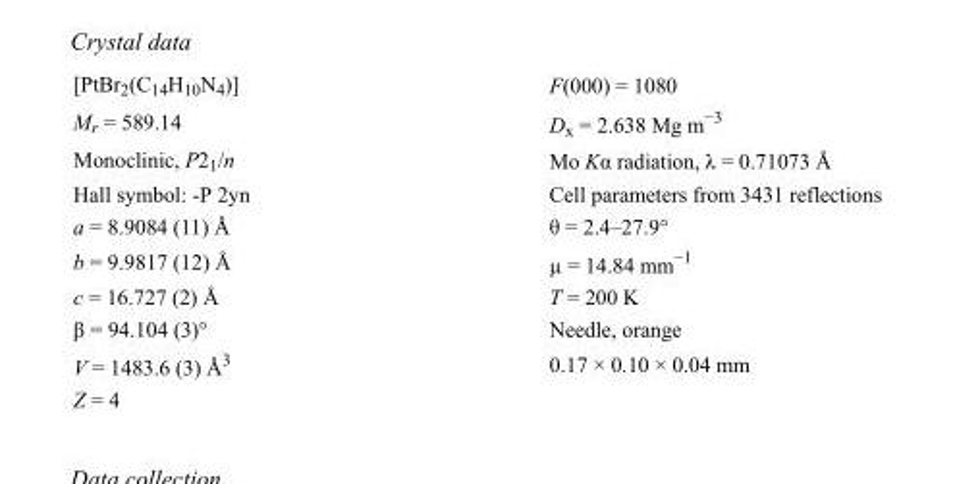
<table><tbody><tr><td>[PtBr<sub>2</sub>(C<sub>14</sub>H<sub>10</sub>N<sub>4</sub>)]</td><td>F(000) = 1080</td></tr><tr><td>M<sub>r</sub> = 589.14</td><td>D<sub>x</sub> = 2.638 Mg m<sup>−3</sup></td></tr><tr><td>Monoclinic, P2<sub>1</sub>/n</td><td>Mo Kα radiation, λ = 0.71073 Å</td></tr><tr><td>Hall symbol: -P 2yn</td><td>Cell parameters from 3431 reflections</td></tr><tr><td>a = 8.9084 (11) Å</td><td>θ = 2.4–27.9°</td></tr><tr><td>b = 9.9817 (12) Å</td><td>µ = 14.84 mm<sup>−1</sup></td></tr><tr><td>c = 16.727 (2) Å</td><td>T = 200 K</td></tr><tr><td>β = 94.104 (3)°</td><td>Needle, orange</td></tr><tr><td>V = 1483.6 (3) Å<sup>3</sup></td><td>0.17 × 0.10 × 0.04 mm</td></tr><tr><td>Z = 4</td><td></td></tr></tbody></table>